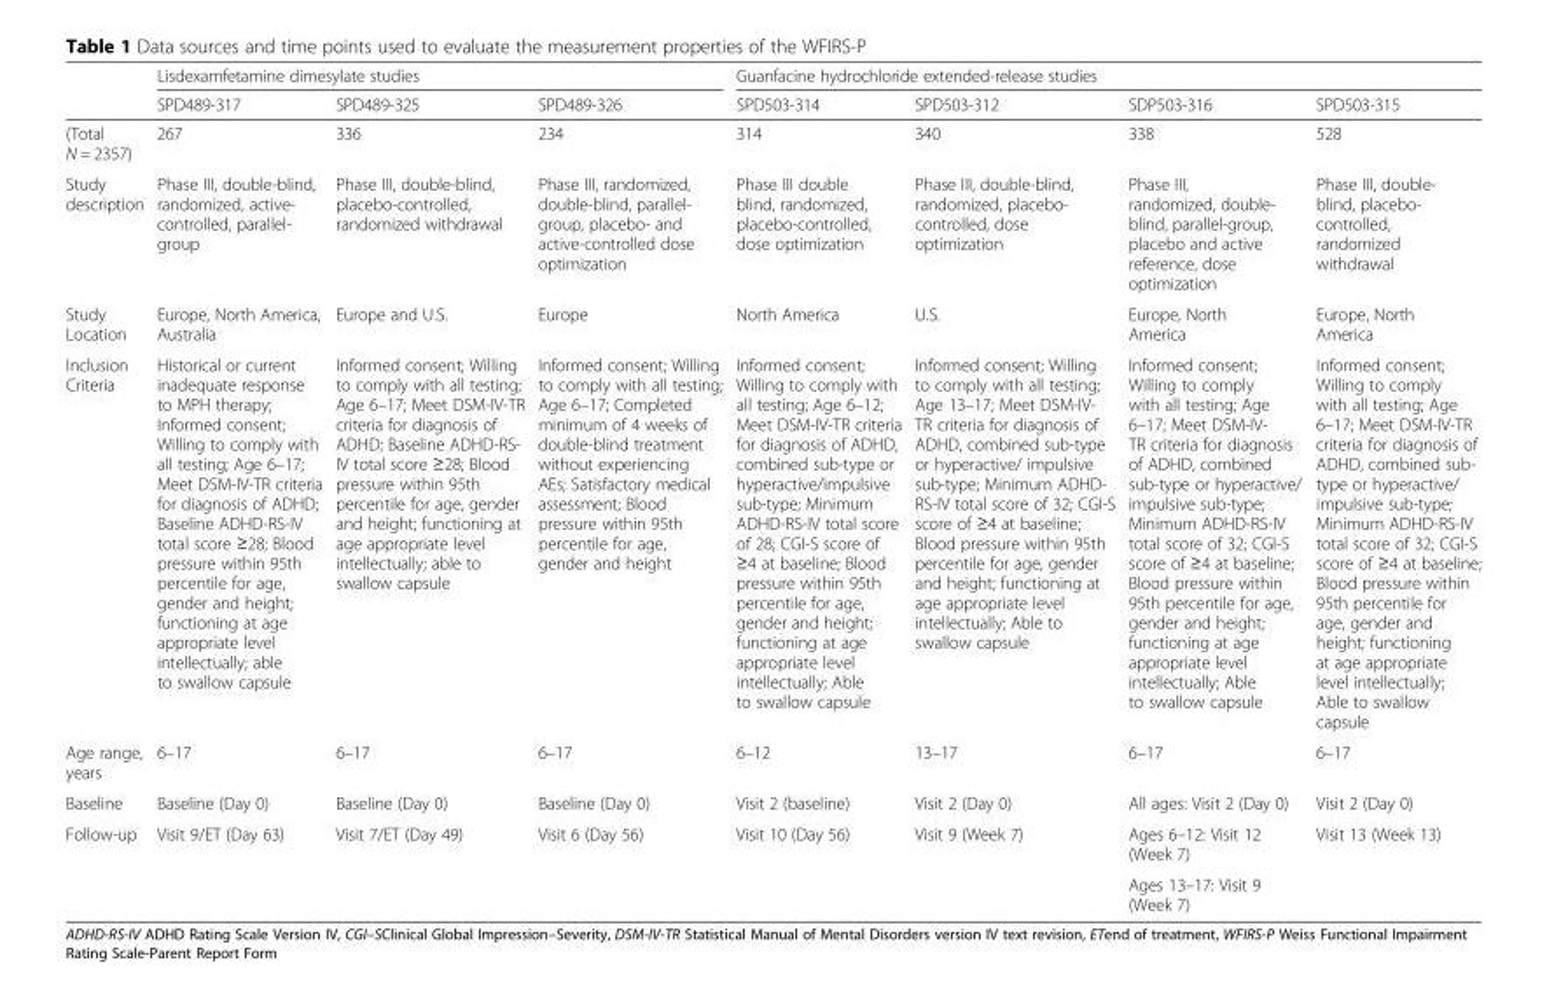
<table><thead><tr><td rowspan="2"></td><td colspan="3">Lisdexamfetamine dimesylate studies</td><td colspan="4">Guanfacine hydrochloride extended-release studies</td></tr><tr><td>SPD489-317</td><td>SPD489-325</td><td>SPD489-326</td><td>SPD503-314</td><td>SPD503-312</td><td>SDP503-316</td><td>SPD503-315</td></tr></thead><tbody><tr><td>(Total N = 2357)</td><td>267</td><td>336</td><td>234</td><td>314</td><td>340</td><td>338</td><td>528</td></tr><tr><td>Study description</td><td>Phase III, double-blind, randomized, active- controlled, parallel- group</td><td>Phase III, double-blind, placebo-controlled, randomized withdrawal</td><td>Phase III, randomized, double-blind, parallel- group, placebo- and active-controlled dose optimization</td><td>Phase III double blind, randomized, placebo-controlled, dose optimization</td><td>Phase III, double-blind, randomized, placebo- controlled, dose optimization</td><td>Phase III, randomized, double- blind, parallel-group, placebo and active reference, dose optimization</td><td>Phase III, double- blind, placebo- controlled, randomized withdrawal</td></tr><tr><td>Study Location</td><td>Europe, North America, Australia</td><td>Europe and U.S.</td><td>Europe</td><td>North America</td><td>U.S.</td><td>Europe, North America</td><td>Europe, North America</td></tr><tr><td>Inclusion Criteria</td><td>Historical or current inadequate response to MPH therapy; Informed consent; Willing to comply with all testing; Age 6–17; Meet DSM-IV-TR criteria for diagnosis of ADHD; Baseline ADHD-RS-IV total score ≥28; Blood pressure within 95th percentile for age, gender and height; functioning at age appropriate level intellectually; able to swallow capsule</td><td>Informed consent; Willing to comply with all testing; Age 6–17; Meet DSM-IV-TR criteria for diagnosis of ADHD; Baseline ADHD-RS- IV total score ≥28; Blood pressure within 95th percentile for age, gender and height; functioning at age appropriate level intellectually; able to swallow capsule</td><td>Informed consent; Willing to comply with all testing; Age 6–17; Completed minimum of 4 weeks of double-blind treatment without experiencing AEs; Satisfactory medical assessment; Blood pressure within 95th percentile for age, gender and height</td><td>Informed consent; Willing to comply with all testing; Age 6–12; Meet DSM-IV-TR criteria for diagnosis of ADHD, combined sub-type or hyperactive/impulsive sub-type; Minimum ADHD-RS-IV total score of 28; CGI-S score of ≥4 at baseline; Blood pressure within 95th percentile for age, gender and height; functioning at age appropriate level intellectually; Able to swallow capsule</td><td>Informed consent; Willing to comply with all testing; Age 13–17; Meet DSM-IV- TR criteria for diagnosis of ADHD, combined sub-type or hyperactive/ impulsive sub-type; Minimum ADHD- RS-IV total score of 32; CGI-S score of ≥4 at baseline; Blood pressure within 95th percentile for age, gender and height; functioning at age appropriate level intellectually; Able to swallow capsule</td><td>Informed consent; Willing to comply with all testing; Age 6–17; Meet DSM-IV- TR criteria for diagnosis of ADHD, combined sub-type or hyperactive/ impulsive sub-type; Minimum ADHD-RS-IV total score of 32; CGI-S score of ≥4 at baseline; Blood pressure within 95th percentile for age, gender and height; functioning at age appropriate level intellectually; Able to swallow capsule</td><td>Informed consent; Willing to comply with all testing; Age 6–17; Meet DSM-IV-TR criteria for diagnosis of ADHD, combined sub- type or hyperactive/ impulsive sub-type; Minimum ADHD-RS-IV total score of 32; CGI-S score of ≥4 at baseline; Blood pressure within 95th percentile for age, gender and height; functioning at age appropriate level intellectually; Able to swallow capsule</td></tr><tr><td>Age range, years</td><td>6–17</td><td>6–17</td><td>6–17</td><td>6–12</td><td>13–17</td><td>6–17</td><td>6–17</td></tr><tr><td>Baseline</td><td>Baseline (Day 0)</td><td>Baseline (Day 0)</td><td>Baseline (Day 0)</td><td>Visit 2 (baseline)</td><td>Visit 2 (Day 0)</td><td>All ages: Visit 2 (Day 0)</td><td>Visit 2 (Day 0)</td></tr><tr><td rowspan="2">Follow-up</td><td rowspan="2">Visit 9/ET (Day 63)</td><td rowspan="2">Visit 7/ET (Day 49)</td><td rowspan="2">Visit 6 (Day 56)</td><td rowspan="2">Visit 10 (Day 56)</td><td rowspan="2">Visit 9 (Week 7)</td><td>Ages 6–12: Visit 12 (Week 7)</td><td rowspan="2">Visit 13 (Week 13)</td></tr><tr><td>Ages 13–17: Visit 9 (Week 7)</td></tr></tbody></table>